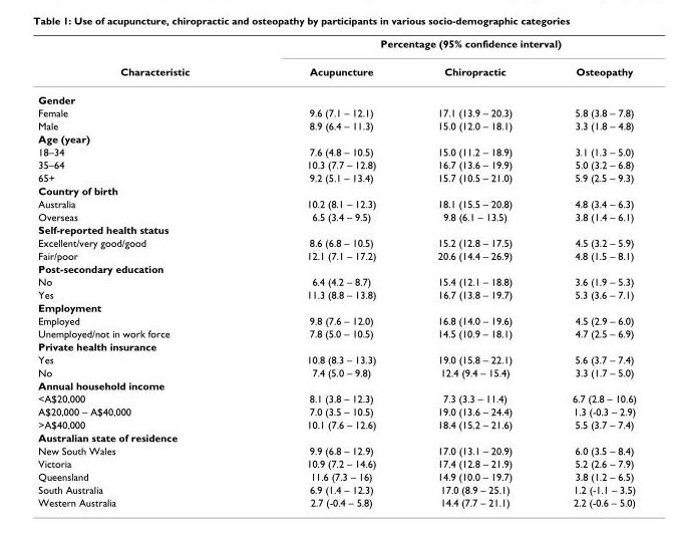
<table><thead><tr><td rowspan="2">Characteristic</td><td colspan="3">Percentage (95% confidence interval)</td></tr><tr><td>Acupuncture</td><td>Chiropractic</td><td>Osteopathy</td></tr></thead><tbody><tr><td colspan="4">Gender</td></tr><tr><td>Female</td><td>9.6 (7.1 – 12.1)</td><td>17.1 (13.9 – 20.3)</td><td>5.8 (3.8 – 7.8)</td></tr><tr><td>Male</td><td>8.9 (6.4 – 11.3)</td><td>15.0 (12.0 – 18.1)</td><td>3.3 (1.8 – 4.8)</td></tr><tr><td colspan="4">Age (year)</td></tr><tr><td>18–34</td><td>7.6 (4.8 – 10.5)</td><td>15.0 (11.2 – 18.9)</td><td>3.1 (1.3 – 5.0)</td></tr><tr><td>35–64</td><td>10.3 (7.7 – 12.8)</td><td>16.7 (13.6 – 19.9)</td><td>5.0 (3.2 – 6.8)</td></tr><tr><td>65+</td><td>9.2 (5.1 – 13.4)</td><td>15.7 (10.5 – 21.0)</td><td>5.9 (2.5 – 9.3)</td></tr><tr><td colspan="4">Country of birth</td></tr><tr><td>Australia</td><td>10.2 (8.1 – 12.3)</td><td>18.1 (15.5 – 20.8)</td><td>4.8 (3.4 – 6.3)</td></tr><tr><td>Overseas</td><td>6.5 (3.4 – 9.5)</td><td>9.8 (6.1 – 13.5)</td><td>3.8 (1.4 – 6.1)</td></tr><tr><td colspan="4">Self-reported health status</td></tr><tr><td>Excellent/very good/good</td><td>8.6 (6.8 – 10.5)</td><td>15.2 (12.8 – 17.5)</td><td>4.5 (3.2 – 5.9)</td></tr><tr><td>Fair/poor</td><td>12.1 (7.1 – 17.2)</td><td>20.6 (14.4 – 26.9)</td><td>4.8 (1.5 – 8.1)</td></tr><tr><td colspan="4">Post-secondary education</td></tr><tr><td>No</td><td>6.4 (4.2 – 8.7)</td><td>15.4 (12.1 – 18.8)</td><td>3.6 (1.9 – 5.3)</td></tr><tr><td>Yes</td><td>11.3 (8.8 – 13.8)</td><td>16.7 (13.8 – 19.7)</td><td>5.3 (3.6 – 7.1)</td></tr><tr><td colspan="4">Employment</td></tr><tr><td>Employed</td><td>9.8 (7.6 – 12.0)</td><td>16.8 (14.0 – 19.6)</td><td>4.5 (2.9 – 6.0)</td></tr><tr><td>Unemployed/not in work force</td><td>7.8 (5.0 – 10.5)</td><td>14.5 (10.9 – 18.1)</td><td>4.7 (2.5 – 6.9)</td></tr><tr><td colspan="4">Private health insurance</td></tr><tr><td>Yes</td><td>10.8 (8.3 – 13.3)</td><td>19.0 (15.8 – 22.1)</td><td>5.6 (3.7 – 7.4)</td></tr><tr><td>No</td><td>7.4 (5.0 – 9.8)</td><td>12.4 (9.4 – 15.4)</td><td>3.3 (1.7 – 5.0)</td></tr><tr><td colspan="4">Annual household income</td></tr><tr><td>&lt;A$20,000</td><td>8.1 (3.8 – 12.3)</td><td>7.3 (3.3 – 11.4)</td><td>6.7 (2.8 – 10.6)</td></tr><tr><td>A$20,000 – A$40,000</td><td>7.0 (3.5 – 10.5)</td><td>19.0 (13.6 – 24.4)</td><td>1.3 (-0.3 – 2.9)</td></tr><tr><td>&gt;A$40,000</td><td>10.1 (7.6 – 12.6)</td><td>18.4 (15.2 – 21.6)</td><td>5.5 (3.7 – 7.4)</td></tr><tr><td colspan="4">Australian state of residence</td></tr><tr><td>New South Wales</td><td>9.9 (6.8 – 12.9)</td><td>17.0 (13.1 – 20.9)</td><td>6.0 (3.5 – 8.4)</td></tr><tr><td>Victoria</td><td>10.9 (7.2 – 14.6)</td><td>17.4 (12.8 – 21.9)</td><td>5.2 (2.6 – 7.9)</td></tr><tr><td>Queensland</td><td>11.6 (7.3 – 16)</td><td>14.9 (10.0 – 19.7)</td><td>3.8 (1.2 – 6.5)</td></tr><tr><td>South Australia</td><td>6.9 (1.4 – 12.3)</td><td>17.0 (8.9 – 25.1)</td><td>1.2 (-1.1 – 3.5)</td></tr><tr><td>Western Australia</td><td>2.7 (-0.4 – 5.8)</td><td>14.4 (7.7 – 21.1)</td><td>2.2 (-0.6 – 5.0)</td></tr></tbody></table>